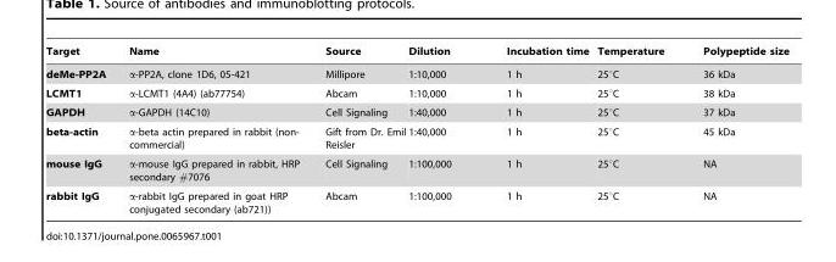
<table><thead><tr><td>Target</td><td>Name</td><td>Source</td><td>Dilution</td><td>Incubation time</td><td>Temperature</td><td>Polypeptide size</td></tr></thead><tbody><tr><td>deMe-PP2A</td><td>α-PP2A, clone 1D6, 05-421</td><td>Millipore</td><td>1:10,000</td><td>1 h</td><td>25°C</td><td>36 kDa</td></tr><tr><td>LCMT1</td><td>α-LCMT1 (4A4) (ab77754)</td><td>Abcam</td><td>1:10,000</td><td>1 h</td><td>25°C</td><td>38 kDa</td></tr><tr><td>GAPDH</td><td>α-GAPDH (14C10)</td><td>Cell Signaling</td><td>1:40,000</td><td>1 h</td><td>25°C</td><td>37 kDa</td></tr><tr><td>beta-actin</td><td>α-beta actin prepared in rabbit (non- commercial)</td><td>Gift from Dr. Emil Reisler</td><td>1:40,000</td><td>1 h</td><td>25°C</td><td>45 kDa</td></tr><tr><td>mouse IgG</td><td>α-mouse IgG prepared in rabbit, HRP secondary #7076</td><td>Cell Signaling</td><td>1:100,000</td><td>1 h</td><td>25°C</td><td>NA</td></tr><tr><td>rabbit IgG</td><td>α-rabbit IgG prepared in goat HRP conjugated secondary (ab721))</td><td>Abcam</td><td>1:100,000</td><td>1 h</td><td>25°C</td><td>NA</td></tr></tbody></table>